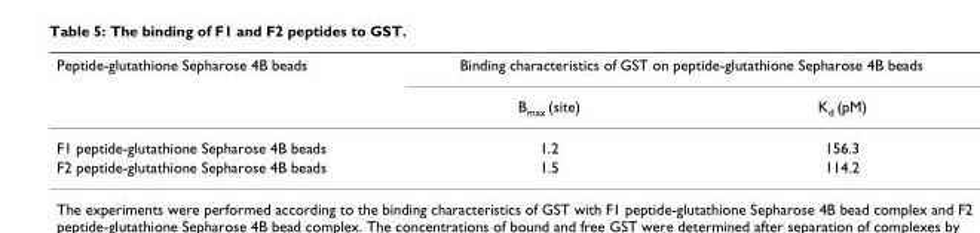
<table><thead><tr><td rowspan="2">Peptide-glutathione Sepharose 4B beads</td><td colspan="2">Binding characteristics of GST on peptide-glutathione Sepharose 4B beads</td></tr><tr><td>B<sub>max</sub> (site)</td><td>K<sub>d</sub> (pM)</td></tr></thead><tbody><tr><td>F1 peptide-glutathione Sepharose 4B beads</td><td>1.2</td><td>156.3</td></tr><tr><td>F2 peptide-glutathione Sepharose 4B beads</td><td>1.5</td><td>114.2</td></tr></tbody></table>